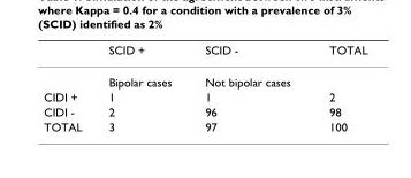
<table><thead><tr><td></td><td>SCID +</td><td>SCID -</td><td>TOTAL</td></tr></thead><tbody><tr><td></td><td>Bipolar cases</td><td>Not bipolar cases</td><td></td></tr><tr><td>CIDI +</td><td>1</td><td>1</td><td>2</td></tr><tr><td>CIDI -</td><td>2</td><td>96</td><td>98</td></tr><tr><td>TOTAL</td><td>3</td><td>97</td><td>100</td></tr></tbody></table>